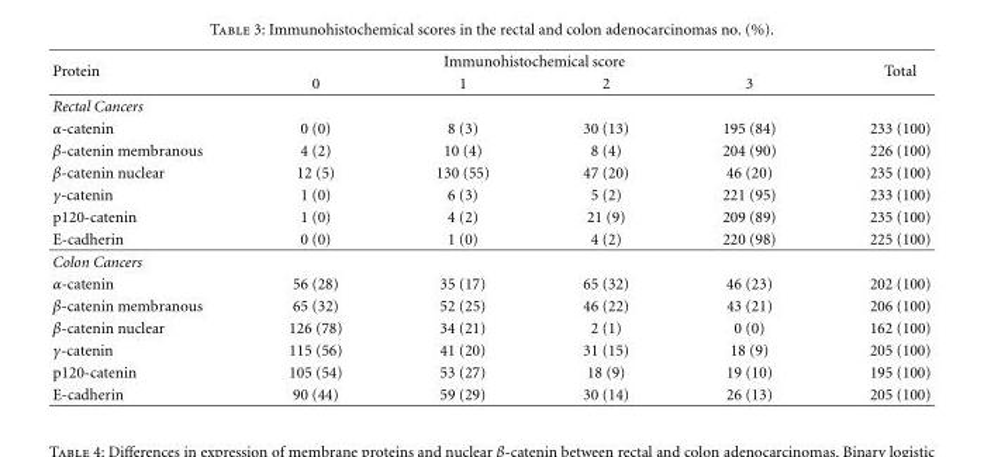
<table><thead><tr><td rowspan="2">Protein</td><td colspan="4">Immunohistochemical score</td><td rowspan="2">Total</td></tr><tr><td>0</td><td>1</td><td>2</td><td>3</td></tr></thead><tbody><tr><td colspan="6">Rectal Cancers</td></tr><tr><td>α-catenin</td><td>0 (0)</td><td>8 (3)</td><td>30 (13)</td><td>195 (84)</td><td>233 (100)</td></tr><tr><td>β-catenin membranous</td><td>4 (2)</td><td>10 (4)</td><td>8 (4)</td><td>204 (90)</td><td>226 (100)</td></tr><tr><td>β-catenin nuclear</td><td>12 (5)</td><td>130 (55)</td><td>47 (20)</td><td>46 (20)</td><td>235 (100)</td></tr><tr><td>γ-catenin</td><td>1 (0)</td><td>6 (3)</td><td>5 (2)</td><td>221 (95)</td><td>233 (100)</td></tr><tr><td>p120-catenin</td><td>1 (0)</td><td>4 (2)</td><td>21 (9)</td><td>209 (89)</td><td>235 (100)</td></tr><tr><td>E-cadherin</td><td>0 (0)</td><td>1 (0)</td><td>4 (2)</td><td>220 (98)</td><td>225 (100)</td></tr><tr><td colspan="6">Colon Cancers</td></tr><tr><td>α-catenin</td><td>56 (28)</td><td>35 (17)</td><td>65 (32)</td><td>46 (23)</td><td>202 (100)</td></tr><tr><td>β-catenin membranous</td><td>65 (32)</td><td>52 (25)</td><td>46 (22)</td><td>43 (21)</td><td>206 (100)</td></tr><tr><td>β-catenin nuclear</td><td>126 (78)</td><td>34 (21)</td><td>2 (1)</td><td>0 (0)</td><td>162 (100)</td></tr><tr><td>γ-catenin</td><td>115 (56)</td><td>41 (20)</td><td>31 (15)</td><td>18 (9)</td><td>205 (100)</td></tr><tr><td>p120-catenin</td><td>105 (54)</td><td>53 (27)</td><td>18 (9)</td><td>19 (10)</td><td>195 (100)</td></tr><tr><td>E-cadherin</td><td>90 (44)</td><td>59 (29)</td><td>30 (14)</td><td>26 (13)</td><td>205 (100)</td></tr></tbody></table>